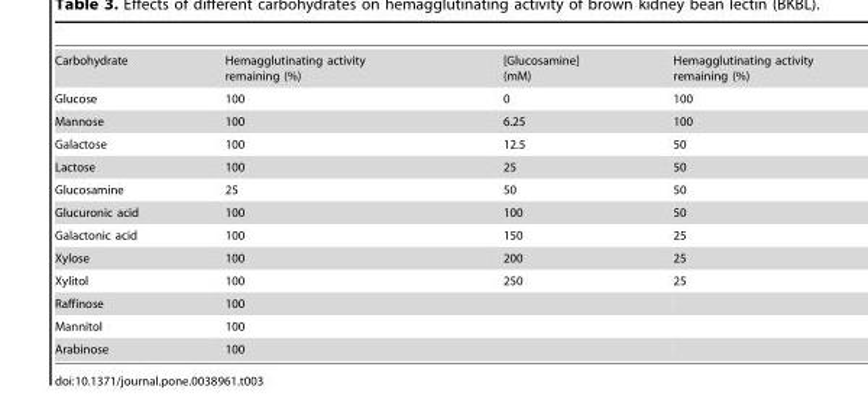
<table><tbody><tr><td>Carbohydrate</td><td>Hemagglutinating activity remaining (%)</td><td>[Glucosamine] (mM)</td><td>Hemagglutinating activity remaining (%)</td></tr><tr><td>Glucose</td><td>100</td><td>0</td><td>100</td></tr><tr><td>Mannose</td><td>100</td><td>6.25</td><td>100</td></tr><tr><td>Galactose</td><td>100</td><td>12.5</td><td>50</td></tr><tr><td>Lactose</td><td>100</td><td>25</td><td>50</td></tr><tr><td>Glucosamine</td><td>25</td><td>50</td><td>50</td></tr><tr><td>Glucuronic acid</td><td>100</td><td>100</td><td>50</td></tr><tr><td>Galactonic acid</td><td>100</td><td>150</td><td>25</td></tr><tr><td>Xylose</td><td>100</td><td>200</td><td>25</td></tr><tr><td>Xylitol</td><td>100</td><td>250</td><td>25</td></tr><tr><td>Raffinose</td><td>100</td><td></td><td></td></tr><tr><td>Mannitol</td><td>100</td><td></td><td></td></tr><tr><td>Arabinose</td><td>100</td><td></td><td></td></tr></tbody></table>